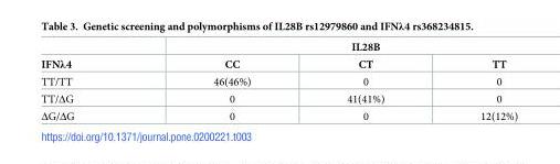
<table><thead><tr><td rowspan="2">IFNλ4</td><td colspan="3">IL28B</td></tr><tr><td>CC</td><td>CT</td><td>TT</td></tr></thead><tbody><tr><td>TT/TT</td><td>46(46%)</td><td>0</td><td>0</td></tr><tr><td>TT/ΔG</td><td>0</td><td>41(41%)</td><td>0</td></tr><tr><td>ΔG/ΔG</td><td>0</td><td>0</td><td>12(12%)</td></tr></tbody></table>